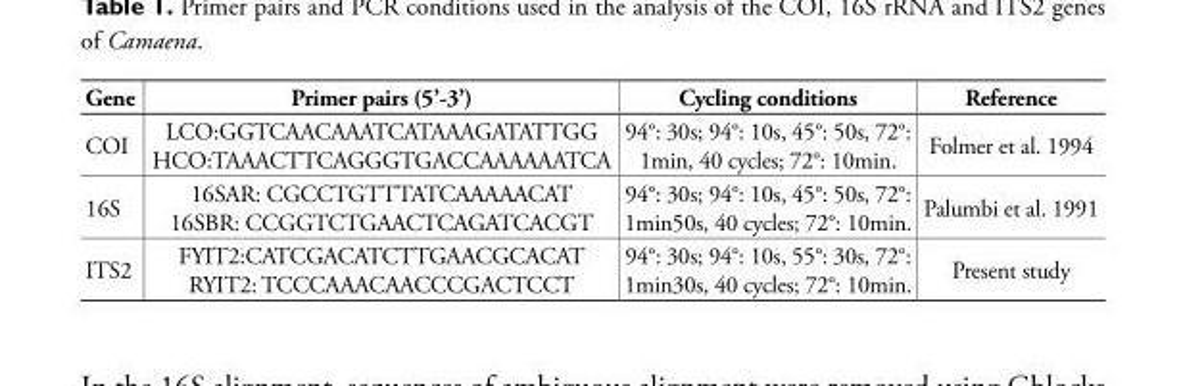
<table><thead><tr><td>Gene</td><td>Primer pairs (5’-3’)</td><td>Cycling conditions</td><td>Reference</td></tr></thead><tbody><tr><td>COI</td><td>LCO:GGTCAACAAATCATAAAGATATTGG HCO:TAAACTTCAGGGTGACCAAAAAATCA</td><td>94°: 30s; 94°: 10s, 45°: 50s, 72°: 1min, 40 cycles; 72°: 10min.</td><td>Folmer et al. 1994</td></tr><tr><td>16S</td><td>16SAR: CGCCTGTTTATCAAAAACAT 16SBR: CCGGTCTGAACTCAGATCACGT</td><td>94°: 30s; 94°: 10s, 45°: 50s, 72°: 1min50s, 40 cycles; 72°: 10min.</td><td>Palumbi et al. 1991</td></tr><tr><td>ITS2</td><td>FYIT2:CATCGACATCTTGAACGCACAT RYIT2: TCCCAAACAACCCGACTCCT</td><td>94°: 30s; 94°: 10s, 55°: 30s, 72°: 1min30s, 40 cycles; 72°: 10min.</td><td>Present study</td></tr></tbody></table>